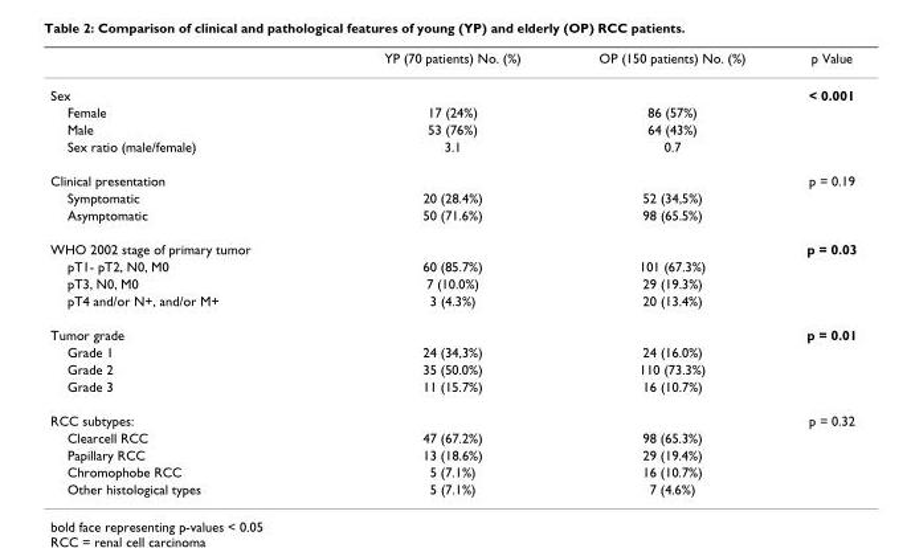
<table><thead><tr><td></td><td>YP (70 patients) No. (%)</td><td>OP (150 patients) No. (%)</td><td>p Value</td></tr></thead><tbody><tr><td>Sex</td><td></td><td></td><td>&lt; 0.001</td></tr><tr><td>Female</td><td>17 (24%)</td><td>86 (57%)</td><td></td></tr><tr><td>Male</td><td>53 (76%)</td><td>64 (43%)</td><td></td></tr><tr><td>Sex ratio (male/female)</td><td>3.1</td><td>0.7</td><td></td></tr><tr><td>Clinical presentation</td><td></td><td></td><td>p = 0.19</td></tr><tr><td>Symptomatic</td><td>20 (28.4%)</td><td>52 (34,5%)</td><td></td></tr><tr><td>Asymptomatic</td><td>50 (71.6%)</td><td>98 (65.5%)</td><td></td></tr><tr><td>WHO 2002 stage of primary tumor</td><td></td><td></td><td>p = 0.03</td></tr><tr><td>pT1- pT2, N0, M0</td><td>60 (85.7%)</td><td>101 (67.3%)</td><td></td></tr><tr><td>pT3, N0, M0</td><td>7 (10.0%)</td><td>29 (19.3%)</td><td></td></tr><tr><td>pT4 and/or N+, and/or M+</td><td>3 (4.3%)</td><td>20 (13.4%)</td><td></td></tr><tr><td>Tumor grade</td><td></td><td></td><td>p = 0.01</td></tr><tr><td>Grade 1</td><td>24 (34,3%)</td><td>24 (16.0%)</td><td></td></tr><tr><td>Grade 2</td><td>35 (50.0%)</td><td>110 (73.3%)</td><td></td></tr><tr><td>Grade 3</td><td>11 (15.7%)</td><td>16 (10.7%)</td><td></td></tr><tr><td>RCC subtypes:</td><td></td><td></td><td>p = 0.32</td></tr><tr><td>Clearcell RCC</td><td>47 (67.2%)</td><td>98 (65.3%)</td><td></td></tr><tr><td>Papillary RCC</td><td>13 (18.6%)</td><td>29 (19.4%)</td><td></td></tr><tr><td>Chromophobe RCC</td><td>5 (7.1%)</td><td>16 (10.7%)</td><td></td></tr><tr><td>Other histological types</td><td>5 (7.1%)</td><td>7 (4.6%)</td><td></td></tr></tbody></table>